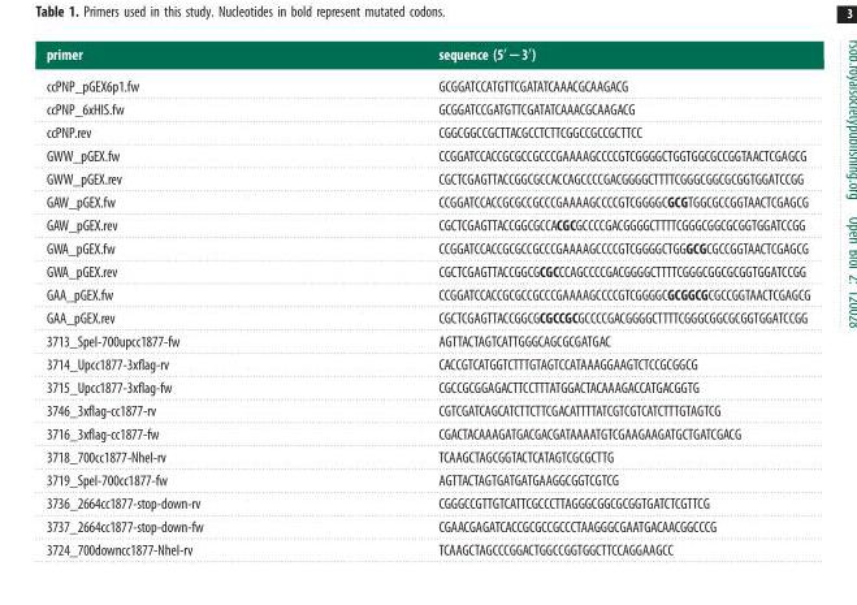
<table><thead><tr><td>primer</td><td>sequence (5′−3′)</td></tr></thead><tbody><tr><td>ccPNP_pGEX6p1.fw</td><td>GCGGATCCATGTTCGATATCAAACGCAAGACG</td></tr><tr><td>ccPNP_6xHIS.fw</td><td>GCGGATCCGATGTTCGATATCAAACGCAAGACG</td></tr><tr><td>ccPNP.rev</td><td>CGGCGGCCGCTTACGCCTCTTCGGCCGCCGCTTCC</td></tr><tr><td>GWW_pGEX.fw</td><td>CCGGATCCACCGCGCCGCCCGAAAAGCCCCGTCGGGGCTGGTGGCGCCGGTAACTCGAGCG</td></tr><tr><td>GWW_pGEX.rev</td><td>CGCTCGAGTTACCGGCGCCACCAGCCCCGACGGGGCTTTTCGGGCGGCGCGGTGGATCCGG</td></tr><tr><td>GAW_pGEX.fw</td><td>CCGGATCCACCGCGCCGCCCGAAAAGCCCCGTCGGGGCGCGTGGCGCCGGTAACTCGAGCG</td></tr><tr><td>GAW_pGEX.rev</td><td>CGCTCGAGTTACCGGCGCCACGCGCCCCGACGGGGCTTTTCGGGCGGCGCGGTGGATCCGG</td></tr><tr><td>GWA_pGEX.fw</td><td>CCGGATCCACCGCGCCGCCCGAAAAGCCCCGTCGGGGCTGGGCGCGCCGGTAACTCGAGCG</td></tr><tr><td>GWA_pGEX.rev</td><td>CGCTCGAGTTACCGGCGCGCCCAGCCCCGACGGGGCTTTTCGGGCGGCGCGGTGGATCCGG</td></tr><tr><td>GAA_pGEX.fw</td><td>CCGGATCCACCGCGCCGCCCGAAAAGCCCCGTCGGGGCGCGGCGCGCCGGTAACTCGAGCG</td></tr><tr><td>GAA_pGEX.rev</td><td>CGCTCGAGTTACCGGCGCGCCGCGCCCCGACGGGGCTTTTCGGGCGGCGCGGTGGATCCGG</td></tr><tr><td>3713_SpeI-700upcc1877-fw</td><td>AGTTACTAGTCATTGGGCAGCGCGATGAC</td></tr><tr><td>3714_Upcc1877-3xflag-rv</td><td>CACCGTCATGGTCTTTGTAGTCCATAAAGGAAGTCTCCGCGGCG</td></tr><tr><td>3715_Upcc1877-3xflag-fw</td><td>CGCCGCGGAGACTTCCTTTATGGACTACAAAGACCATGACGGTG</td></tr><tr><td>3746_3xflag-cc1877-rv</td><td>CGTCGATCAGCATCTTCTTCGACATTTTATCGTCGTCATCTTTGTAGTCG</td></tr><tr><td>3716_3xflag-cc1877-fw</td><td>CGACTACAAAGATGACGACGATAAAATGTCGAAGAAGATGCTGATCGACG</td></tr><tr><td>3718_700cc1877-NheI-rv</td><td>TCAAGCTAGCGGTACTCATAGTCGCGCTTG</td></tr><tr><td>3719_SpeI-700cc1877-fw</td><td>AGTTACTAGTGATGATGAAGGCGGTCGTCG</td></tr><tr><td>3736_2664cc1877-stop-down-rv</td><td>CGGGCCGTTGTCATTCGCCCTTAGGGCGGCGCGGTGATCTCGTTCG</td></tr><tr><td>3737_2664cc1877-stop-down-fw</td><td>CGAACGAGATCACCGCGCCGCCCTAAGGGCGAATGACAACGGCCCG</td></tr><tr><td>3724_700downcc1877-NheI-rv</td><td>TCAAGCTAGCCCGGACTGGCCGGTGGCTTCCAGGAAGCC</td></tr></tbody></table>